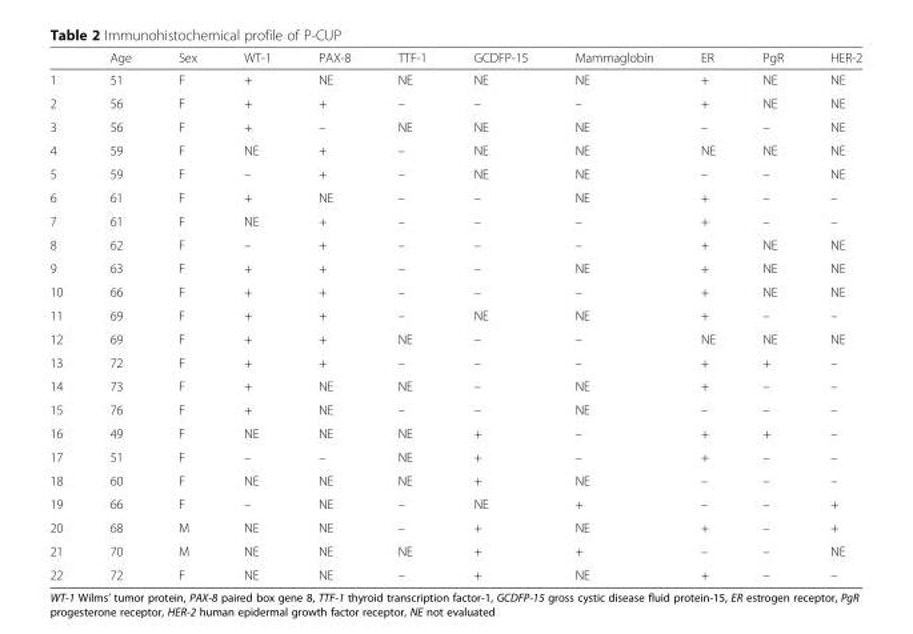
<table><thead><tr><td></td><td>Age</td><td>Sex</td><td>WT-1</td><td>PAX-8</td><td>TTF-1</td><td>GCDFP-15</td><td>Mammaglobin</td><td>ER</td><td>PgR</td><td>HER-2</td></tr></thead><tbody><tr><td>1</td><td>51</td><td>F</td><td>+</td><td>NE</td><td>NE</td><td>NE</td><td>NE</td><td>+</td><td>NE</td><td>NE</td></tr><tr><td>2</td><td>56</td><td>F</td><td>+</td><td>+</td><td>–</td><td>–</td><td>–</td><td>+</td><td>NE</td><td>NE</td></tr><tr><td>3</td><td>56</td><td>F</td><td>+</td><td>–</td><td>NE</td><td>NE</td><td>NE</td><td>–</td><td>–</td><td>NE</td></tr><tr><td>4</td><td>59</td><td>F</td><td>NE</td><td>+</td><td>–</td><td>NE</td><td>NE</td><td>NE</td><td>NE</td><td>NE</td></tr><tr><td>5</td><td>59</td><td>F</td><td>–</td><td>+</td><td>–</td><td>NE</td><td>NE</td><td>–</td><td>–</td><td>NE</td></tr><tr><td>6</td><td>61</td><td>F</td><td>+</td><td>NE</td><td>–</td><td>–</td><td>NE</td><td>+</td><td>–</td><td>–</td></tr><tr><td>7</td><td>61</td><td>F</td><td>NE</td><td>+</td><td>–</td><td>–</td><td>–</td><td>+</td><td>–</td><td>–</td></tr><tr><td>8</td><td>62</td><td>F</td><td>–</td><td>+</td><td>–</td><td>–</td><td>–</td><td>+</td><td>NE</td><td>NE</td></tr><tr><td>9</td><td>63</td><td>F</td><td>+</td><td>+</td><td>–</td><td>–</td><td>NE</td><td>+</td><td>NE</td><td>NE</td></tr><tr><td>10</td><td>66</td><td>F</td><td>+</td><td>+</td><td>–</td><td>–</td><td>–</td><td>+</td><td>NE</td><td>NE</td></tr><tr><td>11</td><td>69</td><td>F</td><td>+</td><td>+</td><td>–</td><td>NE</td><td>NE</td><td>+</td><td>–</td><td>–</td></tr><tr><td>12</td><td>69</td><td>F</td><td>+</td><td>+</td><td>NE</td><td>–</td><td>–</td><td>NE</td><td>NE</td><td>NE</td></tr><tr><td>13</td><td>72</td><td>F</td><td>+</td><td>+</td><td>–</td><td>–</td><td>–</td><td>+</td><td>+</td><td>–</td></tr><tr><td>14</td><td>73</td><td>F</td><td>+</td><td>NE</td><td>NE</td><td>–</td><td>NE</td><td>+</td><td>–</td><td>–</td></tr><tr><td>15</td><td>76</td><td>F</td><td>+</td><td>NE</td><td>–</td><td>–</td><td>NE</td><td>–</td><td>–</td><td>–</td></tr><tr><td>16</td><td>49</td><td>F</td><td>NE</td><td>NE</td><td>NE</td><td>+</td><td>–</td><td>+</td><td>+</td><td>–</td></tr><tr><td>17</td><td>51</td><td>F</td><td>–</td><td>–</td><td>NE</td><td>+</td><td>–</td><td>+</td><td>–</td><td>–</td></tr><tr><td>18</td><td>60</td><td>F</td><td>NE</td><td>NE</td><td>NE</td><td>+</td><td>NE</td><td>–</td><td>–</td><td>–</td></tr><tr><td>19</td><td>66</td><td>F</td><td>–</td><td>NE</td><td>–</td><td>NE</td><td>+</td><td>–</td><td>–</td><td>+</td></tr><tr><td>20</td><td>68</td><td>M</td><td>NE</td><td>NE</td><td>–</td><td>+</td><td>NE</td><td>+</td><td>–</td><td>+</td></tr><tr><td>21</td><td>70</td><td>M</td><td>NE</td><td>NE</td><td>NE</td><td>+</td><td>+</td><td>–</td><td>–</td><td>NE</td></tr><tr><td>22</td><td>72</td><td>F</td><td>NE</td><td>NE</td><td>–</td><td>+</td><td>NE</td><td>+</td><td>–</td><td>–</td></tr></tbody></table>